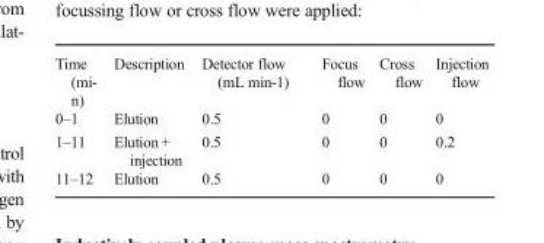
<table><tbody><tr><td>Time (mi- n)</td><td>Description</td><td>Detector flow (mL min-1)</td><td>Focus flow</td><td>Cross flow</td><td>Injection flow</td></tr><tr><td>0–1</td><td>Elution</td><td>0.5</td><td>0</td><td>0</td><td>0</td></tr><tr><td>1–11</td><td>Elution + injection</td><td>0.5</td><td>0</td><td>0</td><td>0.2</td></tr><tr><td>11–12</td><td>Elution</td><td>0.5</td><td>0</td><td>0</td><td>0</td></tr></tbody></table>